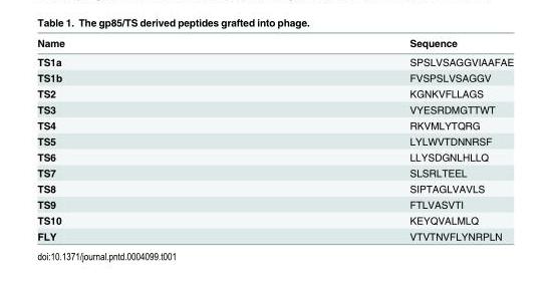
<table><thead><tr><td>Name</td><td>Sequence</td></tr></thead><tbody><tr><td>TS1a</td><td>SPSLVSAGGVIAAFAE</td></tr><tr><td>TS1b</td><td>FVSPSLVSAGGV</td></tr><tr><td>TS2</td><td>KGNKVFLLAGS</td></tr><tr><td>TS3</td><td>VYESRDMGTTWT</td></tr><tr><td>TS4</td><td>RKVMLYTQRG</td></tr><tr><td>TS5</td><td>LYLWVTDNNRSF</td></tr><tr><td>TS6</td><td>LLYSDGNLHLLQ</td></tr><tr><td>TS7</td><td>SLSRLTEEL</td></tr><tr><td>TS8</td><td>SIPTAGLVAVLS</td></tr><tr><td>TS9</td><td>FTLVASVTI</td></tr><tr><td>TS10</td><td>KEYQVALMLQ</td></tr><tr><td>FLY</td><td>VTVTNVFLYNRPLN</td></tr></tbody></table>